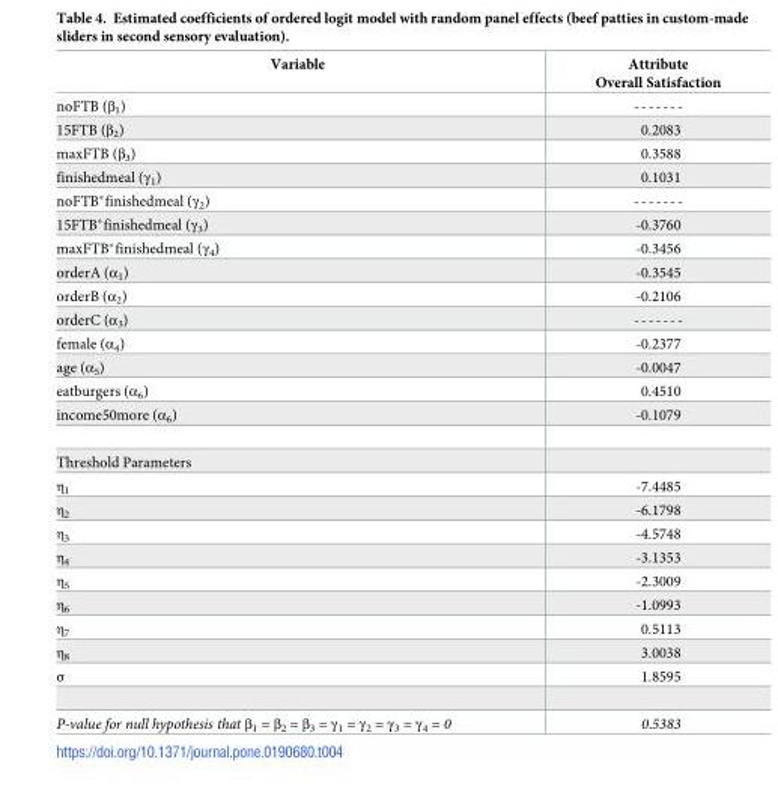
<table><thead><tr><td>Variable</td><td>Attribute Overall Satisfaction</td></tr></thead><tbody><tr><td>noFTB (β<sub>1</sub>)</td><td>-------</td></tr><tr><td>15FTB (β<sub>2</sub>)</td><td>0.2083</td></tr><tr><td>maxFTB (β<sub>3</sub>)</td><td>0.3588</td></tr><tr><td>finishedmeal (γ<sub>1</sub>)</td><td>0.1031</td></tr><tr><td>noFTB*finishedmeal (γ<sub>2</sub>)</td><td>-------</td></tr><tr><td>15FTB*finishedmeal (γ<sub>3</sub>)</td><td>-0.3760</td></tr><tr><td>maxFTB*finishedmeal (γ<sub>4</sub>)</td><td>-0.3456</td></tr><tr><td>orderA (α<sub>1</sub>)</td><td>-0.3545</td></tr><tr><td>orderB (α<sub>2</sub>)</td><td>-0.2106</td></tr><tr><td>orderC (α<sub>3</sub>)</td><td>-------</td></tr><tr><td>female (α<sub>4</sub>)</td><td>-0.2377</td></tr><tr><td>age (α<sub>5</sub>)</td><td>-0.0047</td></tr><tr><td>eatburgers (α<sub>6</sub>)</td><td>0.4510</td></tr><tr><td>income50more (α<sub>6</sub>)</td><td>-0.1079</td></tr><tr><td colspan="2">Threshold Parameters</td></tr><tr><td>η<sub>1</sub></td><td>-7.4485</td></tr><tr><td>η<sub>2</sub></td><td>-6.1798</td></tr><tr><td>η<sub>3</sub></td><td>-4.5748</td></tr><tr><td>η<sub>4</sub></td><td>-3.1353</td></tr><tr><td>η<sub>5</sub></td><td>-2.3009</td></tr><tr><td>η<sub>6</sub></td><td>-1.0993</td></tr><tr><td>η<sub>7</sub></td><td>0.5113</td></tr><tr><td>η<sub>8</sub></td><td>3.0038</td></tr><tr><td>σ</td><td>1.8595</td></tr><tr><td>P-value for null hypothesis that β<sub>1</sub> = β<sub>2</sub> = β<sub>3</sub> = γ<sub>1</sub> = γ<sub>2</sub> = γ<sub>3</sub> = γ<sub>4</sub> = 0</td><td>0.5383</td></tr></tbody></table>